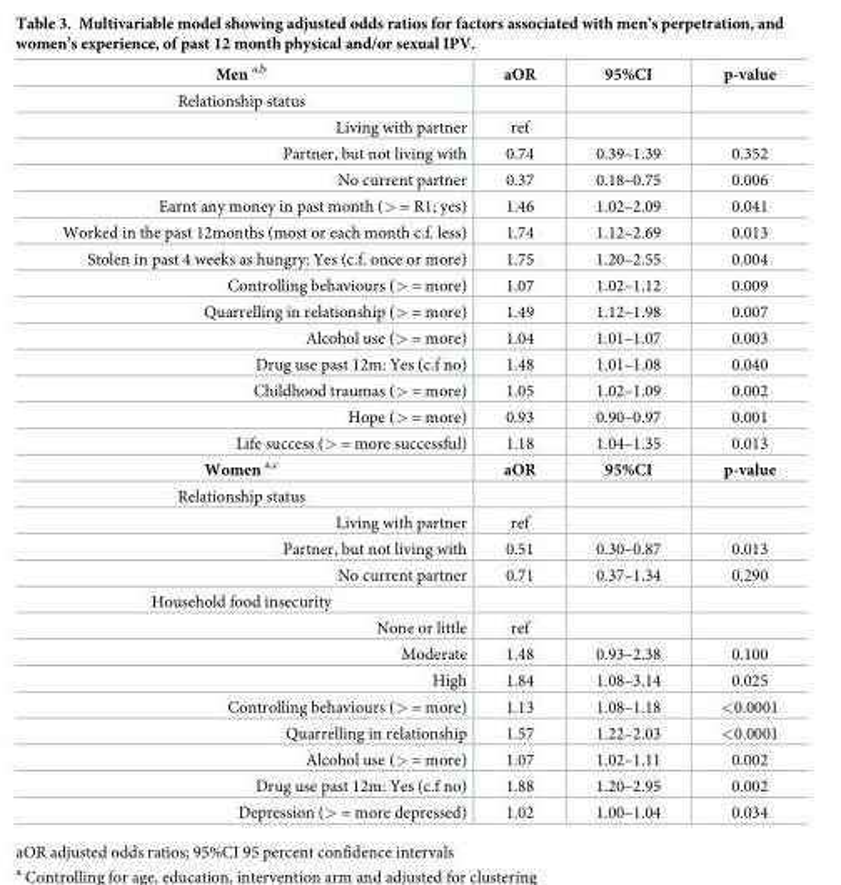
<table><tbody><tr><td>Men <sup>a,b</sup></td><td>aOR</td><td>95%CI</td><td>p-value</td></tr><tr><td colspan="4">Relationship status</td></tr><tr><td>Living with partner</td><td>ref</td><td></td><td></td></tr><tr><td>Partner, but not living with</td><td>0.74</td><td>0.39–1.39</td><td>0.352</td></tr><tr><td>No current partner</td><td>0.37</td><td>0.18–0.75</td><td>0.006</td></tr><tr><td>Earnt any money in past month (&gt; = R1; yes)</td><td>1.46</td><td>1.02–2.09</td><td>0.041</td></tr><tr><td>Worked in the past 12months (most or each month c.f. less)</td><td>1.74</td><td>1.12–2.69</td><td>0.013</td></tr><tr><td>Stolen in past 4 weeks as hungry: Yes (c.f. once or more)</td><td>1.75</td><td>1.20–2.55</td><td>0.004</td></tr><tr><td>Controlling behaviours (&gt; = more)</td><td>1.07</td><td>1.02–1.12</td><td>0.009</td></tr><tr><td>Quarrelling in relationship (&gt; = more)</td><td>1.49</td><td>1.12–1.98</td><td>0.007</td></tr><tr><td>Alcohol use (&gt; = more)</td><td>1.04</td><td>1.01–1.07</td><td>0.003</td></tr><tr><td>Drug use past 12m: Yes (c.f no)</td><td>1.48</td><td>1.01–1.08</td><td>0.040</td></tr><tr><td>Childhood traumas (&gt; = more)</td><td>1.05</td><td>1.02–1.09</td><td>0.002</td></tr><tr><td>Hope (&gt; = more)</td><td>0.93</td><td>0.90–0.97</td><td>0.001</td></tr><tr><td>Life success (&gt; = more successful)</td><td>1.18</td><td>1.04–1.35</td><td>0.013</td></tr><tr><td>Women <sup>a,c</sup></td><td>aOR</td><td>95%CI</td><td>p-value</td></tr><tr><td colspan="4">Relationship status</td></tr><tr><td>Living with partner</td><td>ref</td><td></td><td></td></tr><tr><td>Partner, but not living with</td><td>0.51</td><td>0.30–0.87</td><td>0.013</td></tr><tr><td>No current partner</td><td>0.71</td><td>0.37–1.34</td><td>0.290</td></tr><tr><td colspan="4">Household food insecurity</td></tr><tr><td>None or little</td><td>ref</td><td></td><td></td></tr><tr><td>Moderate</td><td>1.48</td><td>0.93–2.38</td><td>0.100</td></tr><tr><td>High</td><td>1.84</td><td>1.08–3.14</td><td>0.025</td></tr><tr><td>Controlling behaviours (&gt; = more)</td><td>1.13</td><td>1.08–1.18</td><td>&lt;0.0001</td></tr><tr><td>Quarrelling in relationship</td><td>1.57</td><td>1.22–2.03</td><td>&lt;0.0001</td></tr><tr><td>Alcohol use (&gt; = more)</td><td>1.07</td><td>1.02–1.11</td><td>0.002</td></tr><tr><td>Drug use past 12m: Yes (c.f no)</td><td>1.88</td><td>1.20–2.95</td><td>0.002</td></tr><tr><td>Depression (&gt; = more depressed)</td><td>1.02</td><td>1.00–1.04</td><td>0.034</td></tr></tbody></table>